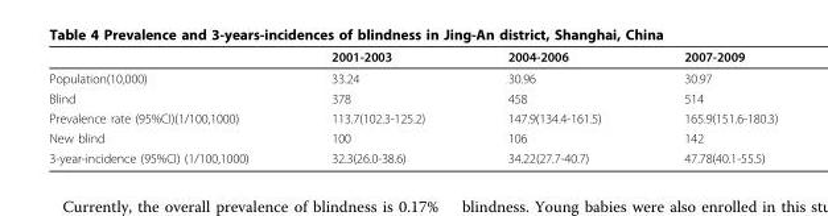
<table><thead><tr><td></td><td>2001-2003</td><td>2004-2006</td><td>2007-2009</td></tr></thead><tbody><tr><td>Population(10,000)</td><td>33.24</td><td>30.96</td><td>30.97</td></tr><tr><td>Blind</td><td>378</td><td>458</td><td>514</td></tr><tr><td>Prevalence rate (95%CI)(1/100,1000)</td><td>113.7(102.3-125.2)</td><td>147.9(134.4-161.5)</td><td>165.9(151.6-180.3)</td></tr><tr><td>New blind</td><td>100</td><td>106</td><td>142</td></tr><tr><td>3-year-incidence (95%CI) (1/100,1000)</td><td>32.3(26.0-38.6)</td><td>34.22(27.7-40.7)</td><td>47.78(40.1-55.5)</td></tr></tbody></table>